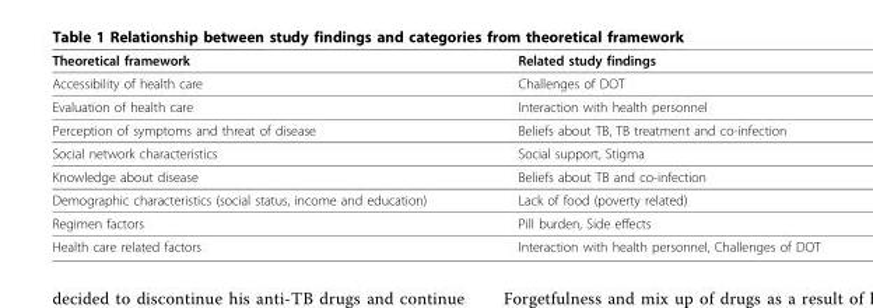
<table><thead><tr><td>Theoretical framework</td><td>Related study findings</td></tr></thead><tbody><tr><td>Accessibility of health care</td><td>Challenges of DOT</td></tr><tr><td>Evaluation of health care</td><td>Interaction with health personnel</td></tr><tr><td>Perception of symptoms and threat of disease</td><td>Beliefs about TB, TB treatment and co-infection</td></tr><tr><td>Social network characteristics</td><td>Social support, Stigma</td></tr><tr><td>Knowledge about disease</td><td>Beliefs about TB and co-infection</td></tr><tr><td>Demographic characteristics (social status, income and education)</td><td>Lack of food (poverty related)</td></tr><tr><td>Regimen factors</td><td>Pill burden, Side effects</td></tr><tr><td>Health care related factors</td><td>Interaction with health personnel, Challenges of DOT</td></tr></tbody></table>